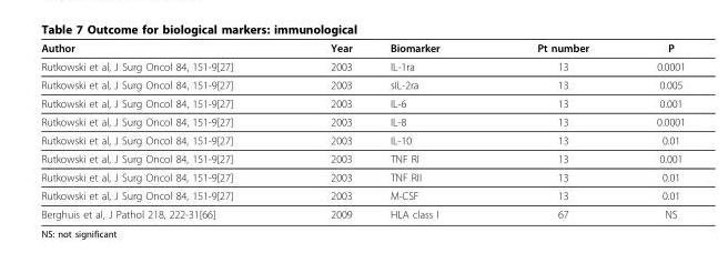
<table><thead><tr><td>Author</td><td>Year</td><td>Biomarker</td><td>Pt number</td><td>P</td></tr></thead><tbody><tr><td>Rutkowski et al, J Surg Oncol 84, 151-9[27]</td><td>2003</td><td>IL-1ra</td><td>13</td><td>0.0001</td></tr><tr><td>Rutkowski et al, J Surg Oncol 84, 151-9[27]</td><td>2003</td><td>sIL-2ra</td><td>13</td><td>0.005</td></tr><tr><td>Rutkowski et al, J Surg Oncol 84, 151-9[27]</td><td>2003</td><td>IL-6</td><td>13</td><td>0.001</td></tr><tr><td>Rutkowski et al, J Surg Oncol 84, 151-9[27]</td><td>2003</td><td>IL-8</td><td>13</td><td>0.0001</td></tr><tr><td>Rutkowski et al, J Surg Oncol 84, 151-9[27]</td><td>2003</td><td>IL-10</td><td>13</td><td>0.01</td></tr><tr><td>Rutkowski et al, J Surg Oncol 84, 151-9[27]</td><td>2003</td><td>TNF RI</td><td>13</td><td>0.001</td></tr><tr><td>Rutkowski et al, J Surg Oncol 84, 151-9[27]</td><td>2003</td><td>TNF RII</td><td>13</td><td>0.01</td></tr><tr><td>Rutkowski et al, J Surg Oncol 84, 151-9[27]</td><td>2003</td><td>M-CSF</td><td>13</td><td>0.01</td></tr><tr><td>Berghuis et al, J Pathol 218, 222-31[66]</td><td>2009</td><td>HLA class I</td><td>67</td><td>NS</td></tr></tbody></table>